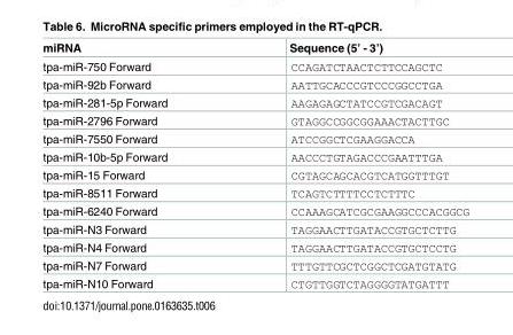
<table><thead><tr><td>miRNA</td><td>Sequence (5’ - 3’)</td></tr></thead><tbody><tr><td>tpa-miR-750 Forward</td><td>CCAGATCTAACTCTTCCAGCTC</td></tr><tr><td>tpa-miR-92b Forward</td><td>AATTGCACCCGTCCCGGCCTGA</td></tr><tr><td>tpa-miR-281-5p Forward</td><td>AAGAGAGCTATCCGTCGACAGT</td></tr><tr><td>tpa-miR-2796 Forward</td><td>GTAGGCCGGCGGAAACTACTTGC</td></tr><tr><td>tpa-miR-7550 Forward</td><td>ATCCGGCTCGAAGGACCA</td></tr><tr><td>tpa-miR-10b-5p Forward</td><td>AACCCTGTAGACCCGAATTTGA</td></tr><tr><td>tpa-miR-15 Forward</td><td>CGTAGCAGCACGTCATGGTTTGT</td></tr><tr><td>tpa-miR-8511 Forward</td><td>TCAGTCTTTTCCTCTTTC</td></tr><tr><td>tpa-miR-6240 Forward</td><td>CCAAAGCATCGCGAAGGCCCACGGCG</td></tr><tr><td>tpa-miR-N3 Forward</td><td>TAGGAACTTGATACCGTGCTCTTG</td></tr><tr><td>tpa-miR-N4 Forward</td><td>TAGGAACTTGATACCGTGCTCCTG</td></tr><tr><td>tpa-miR-N7 Forward</td><td>TTTGTTCGCTCGGCTCGATGTATG</td></tr><tr><td>tpa-miR-N10 Forward</td><td>CTGTTGGTCTAGGGGTATGATTT</td></tr></tbody></table>